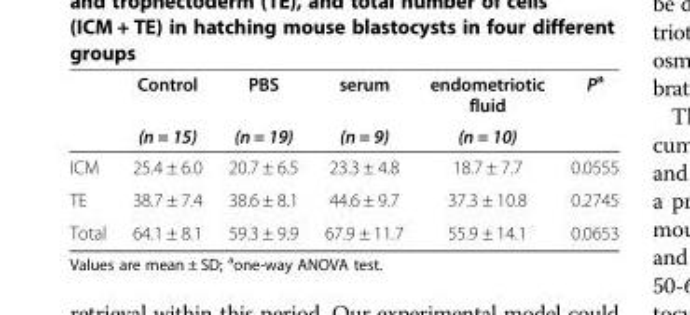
<table><thead><tr><td rowspan="2"></td><td rowspan="2">Control (n = 15)</td><td rowspan="2">PBS (n = 19)</td><td rowspan="2">serum (n = 9)</td><td rowspan="2">endometriotic fluid (n = 10)</td><td rowspan="2">P<sup>a</sup></td></tr><tr></tr></thead><tbody><tr><td>ICM</td><td>25.4 ± 6.0</td><td>20.7 ± 6.5</td><td>23.3 ± 4.8</td><td>18.7 ± 7.7</td><td>0.0555</td></tr><tr><td>TE</td><td>38.7 ± 7.4</td><td>38.6 ± 8.1</td><td>44.6 ± 9.7</td><td>37.3 ± 10.8</td><td>0.2745</td></tr><tr><td>Total</td><td>64.1 ± 8.1</td><td>59.3 ± 9.9</td><td>67.9 ± 11.7</td><td>55.9 ± 14.1</td><td>0.0653</td></tr></tbody></table>